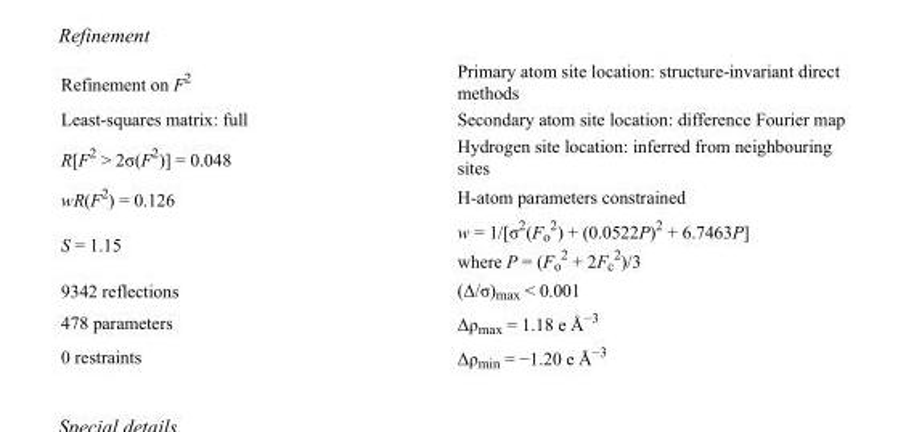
<table><tbody><tr><td>Refinement on F<sup>2</sup></td><td>Primary atom site location: structure-invariant direct methods</td></tr><tr><td>Least-squares matrix: full</td><td>Secondary atom site location: difference Fourier map</td></tr><tr><td>R[F<sup>2</sup> &gt; 2σ(F<sup>2</sup>)] = 0.048</td><td>Hydrogen site location: inferred from neighbouring sites</td></tr><tr><td>wR(F<sup>2</sup>) = 0.126</td><td>H-atom parameters constrained</td></tr><tr><td>S = 1.15</td><td>w = 1/[σ<sup>2</sup>(F<sub>o</sub> <sup>2</sup>) + (0.0522P)<sup>2</sup> + 6.7463P] where P = (F<sub>o</sub> <sup>2</sup> + 2F<sub>c</sub> <sup>2</sup>)/3</td></tr><tr><td>9342 reflections</td><td>(Δ/σ)<sub>max</sub> &lt; 0.001</td></tr><tr><td>478 parameters</td><td>Δρ<sub>max</sub> = 1.18 e Å<sup>−3</sup></td></tr><tr><td>0 restraints</td><td>Δρ<sub>min</sub> = −1.20 e Å<sup>−3</sup></td></tr></tbody></table>